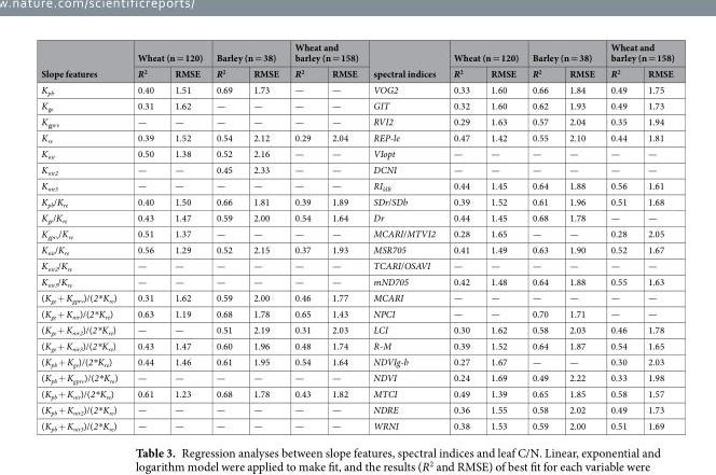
<table><thead><tr><td rowspan="2">Slope features</td><td colspan="2">Wheat (n = 120)</td><td colspan="2">Barley (n = 38)</td><td colspan="2">Wheat and barley (n = 158)</td><td rowspan="2">spectral indices</td><td colspan="2">Wheat (n = 120)</td><td colspan="2">Barley (n = 38)</td><td colspan="2">Wheat and barley (n = 158)</td></tr><tr><td>R<sup>2</sup></td><td>RMSE</td><td>R<sup>2</sup></td><td>RMSE</td><td>R<sup>2</sup></td><td>RMSE</td><td>R<sup>2</sup></td><td>RMSE</td><td>R<sup>2</sup></td><td>RMSE</td><td>R<sup>2</sup></td><td>RMSE</td></tr></thead><tbody><tr><td>K<sub>pb</sub></td><td>0.40</td><td>1.51</td><td>0.69</td><td>1.73</td><td>—</td><td>—</td><td>VOG2</td><td>0.33</td><td>1.60</td><td>0.66</td><td>1.84</td><td>0.49</td><td>1.75</td></tr><tr><td>K<sub>ge</sub></td><td>0.31</td><td>1.62</td><td>—</td><td>—</td><td>—</td><td>—</td><td>GIT</td><td>0.32</td><td>1.60</td><td>0.62</td><td>1.93</td><td>0.49</td><td>1.73</td></tr><tr><td>K<sub>gprv</sub></td><td>—</td><td>—</td><td>—</td><td>—</td><td>—</td><td>—</td><td>RVI2</td><td>0.29</td><td>1.63</td><td>0.57</td><td>2.04</td><td>0.35</td><td>1.94</td></tr><tr><td>K<sub>re</sub></td><td>0.39</td><td>1.52</td><td>0.54</td><td>2.12</td><td>0.29</td><td>2.04</td><td>REP-le</td><td>0.47</td><td>1.42</td><td>0.55</td><td>2.10</td><td>0.44</td><td>1.81</td></tr><tr><td>K<sub>nir</sub></td><td>0.50</td><td>1.38</td><td>0.52</td><td>2.16</td><td>—</td><td>—</td><td>VIopt</td><td>—</td><td>—</td><td>—</td><td>—</td><td>—</td><td>—</td></tr><tr><td>K<sub>nir2</sub></td><td>—</td><td>—</td><td>0.45</td><td>2.33</td><td>—</td><td>—</td><td>DCNI</td><td>—</td><td>—</td><td>—</td><td>—</td><td>—</td><td>—</td></tr><tr><td>K<sub>nir3</sub></td><td>—</td><td>—</td><td>—</td><td>—</td><td>—</td><td>—</td><td>RI<sub>ldB</sub></td><td>0.44</td><td>1.45</td><td>0.64</td><td>1.88</td><td>0.56</td><td>1.61</td></tr><tr><td>K<sub>pb</sub>/K<sub>re</sub></td><td>0.40</td><td>1.50</td><td>0.66</td><td>1.81</td><td>0.39</td><td>1.89</td><td>SDr/SDb</td><td>0.39</td><td>1.52</td><td>0.61</td><td>1.96</td><td>0.51</td><td>1.68</td></tr><tr><td>K<sub>ge</sub>/K<sub>re</sub></td><td>0.43</td><td>1.47</td><td>0.59</td><td>2.00</td><td>0.54</td><td>1.64</td><td>Dr</td><td>0.44</td><td>1.45</td><td>0.68</td><td>1.78</td><td>—</td><td>—</td></tr><tr><td>K<sub>gprv</sub>/K<sub>re</sub></td><td>0.51</td><td>1.37</td><td>—</td><td>—</td><td>—</td><td>—</td><td>MCARI/MTVI2</td><td>0.28</td><td>1.65</td><td>—</td><td>—</td><td>0.28</td><td>2.05</td></tr><tr><td>K<sub>nir</sub>/K<sub>re</sub></td><td>0.56</td><td>1.29</td><td>0.52</td><td>2.15</td><td>0.37</td><td>1.93</td><td>MSR705</td><td>0.41</td><td>1.49</td><td>0.63</td><td>1.90</td><td>0.52</td><td>1.67</td></tr><tr><td>K<sub>nir2</sub>/K<sub>re</sub></td><td>—</td><td>—</td><td>—</td><td>—</td><td>—</td><td>—</td><td>TCARI/OSAVI</td><td>—</td><td>—</td><td>—</td><td>—</td><td>—</td><td>—</td></tr><tr><td>K<sub>nir3</sub>/K<sub>re</sub></td><td>—</td><td>—</td><td>—</td><td>—</td><td>—</td><td>—</td><td>mND705</td><td>0.42</td><td>1.48</td><td>0.64</td><td>1.88</td><td>0.55</td><td>1.63</td></tr><tr><td>(K<sub>ge</sub> + K<sub>gprv</sub>)/(2*K<sub>re</sub>)</td><td>0.31</td><td>1.62</td><td>0.59</td><td>2.00</td><td>0.46</td><td>1.77</td><td>MCARI</td><td>—</td><td>—</td><td>—</td><td>—</td><td>—</td><td>—</td></tr><tr><td>(K<sub>ge</sub> + K<sub>nir</sub>)/(2*K<sub>re</sub>)</td><td>0.63</td><td>1.19</td><td>0.68</td><td>1.78</td><td>0.65</td><td>1.43</td><td>NPCI</td><td>—</td><td>—</td><td>0.70</td><td>1.71</td><td>—</td><td>—</td></tr><tr><td>(K<sub>ge</sub> + K<sub>nir2</sub>)/(2*K<sub>re</sub>)</td><td>—</td><td>—</td><td>0.51</td><td>2.19</td><td>0.31</td><td>2.03</td><td>LCI</td><td>0.30</td><td>1.62</td><td>0.58</td><td>2.03</td><td>0.46</td><td>1.78</td></tr><tr><td>(K<sub>ge</sub> + K<sub>nir3</sub>)/(2*K<sub>re</sub>)</td><td>0.43</td><td>1.47</td><td>0.60</td><td>1.96</td><td>0.48</td><td>1.74</td><td>R-M</td><td>0.39</td><td>1.52</td><td>0.64</td><td>1.87</td><td>0.54</td><td>1.65</td></tr><tr><td>(K<sub>pb</sub> + K<sub>ge</sub>)/(2*K<sub>re</sub>)</td><td>0.44</td><td>1.46</td><td>0.61</td><td>1.95</td><td>0.54</td><td>1.64</td><td>NDVIg-b</td><td>0.27</td><td>1.67</td><td>—</td><td>—</td><td>0.30</td><td>2.03</td></tr><tr><td>(K<sub>pb</sub> + K<sub>gprv</sub>)/(2*K<sub>re</sub>)</td><td>—</td><td>—</td><td>—</td><td>—</td><td>—</td><td>—</td><td>NDVI</td><td>0.24</td><td>1.69</td><td>0.49</td><td>2.22</td><td>0.33</td><td>1.98</td></tr><tr><td>(K<sub>pb</sub> + K<sub>nir</sub>)/(2*K<sub>re</sub>)</td><td>0.61</td><td>1.23</td><td>0.68</td><td>1.78</td><td>0.43</td><td>1.82</td><td>MTCI</td><td>0.49</td><td>1.39</td><td>0.65</td><td>1.85</td><td>0.58</td><td>1.57</td></tr><tr><td>(K<sub>pb</sub> + K<sub>nir2</sub>)/(2*K<sub>re</sub>)</td><td>—</td><td>—</td><td>—</td><td>—</td><td>—</td><td>—</td><td>NDRE</td><td>0.36</td><td>1.55</td><td>0.58</td><td>2.02</td><td>0.49</td><td>1.73</td></tr><tr><td>(K<sub>pb</sub> + K<sub>nir3</sub>)/(2*K<sub>re</sub>)</td><td>—</td><td>—</td><td>—</td><td>—</td><td>—</td><td>—</td><td>WRNI</td><td>0.38</td><td>1.53</td><td>0.59</td><td>2.00</td><td>0.51</td><td>1.69</td></tr></tbody></table>